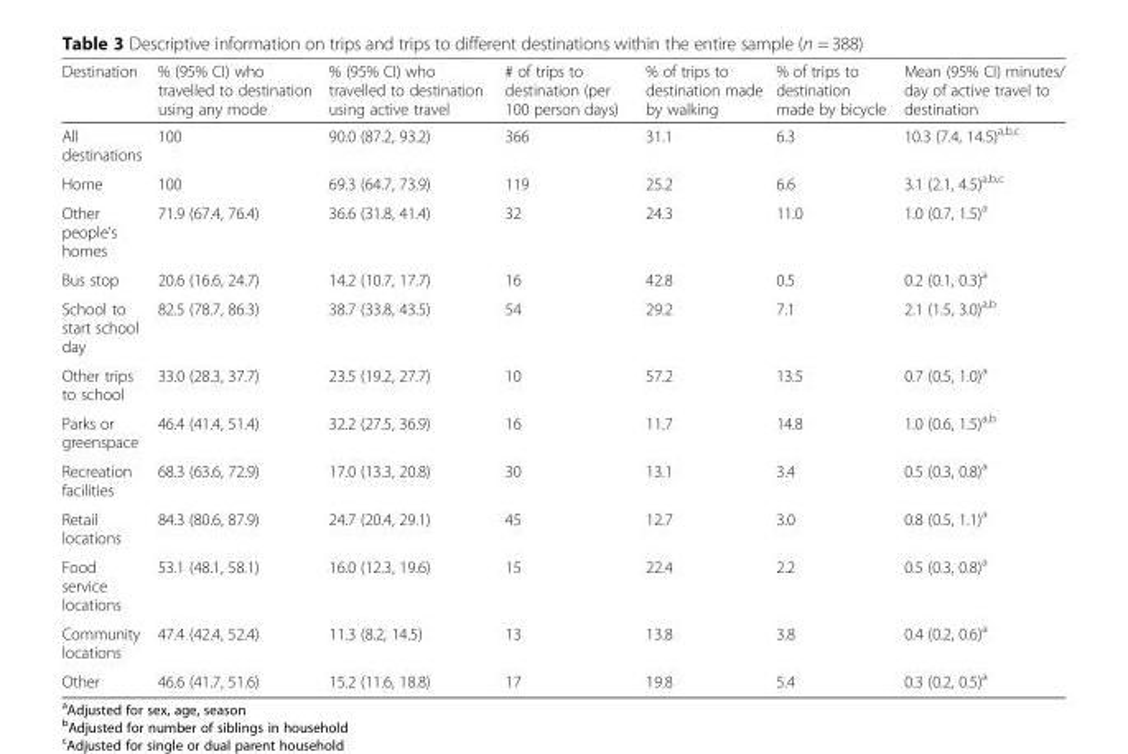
<table><thead><tr><td>Destination</td><td>% (95% CI) who travelled to destination using any mode</td><td>% (95% CI) who travelled to destination using active travel</td><td># of trips to destination (per 100 person days)</td><td>% of trips to destination made by walking</td><td>% of trips to destination made by bicycle</td><td>Mean (95% CI) minutes/ day of active travel to destination</td></tr></thead><tbody><tr><td>All destinations</td><td>100</td><td>90.0 (87.2, 93.2)</td><td>366</td><td>31.1</td><td>6.3</td><td>10.3 (7.4, 14.5)<sup>a,b,c</sup></td></tr><tr><td>Home</td><td>100</td><td>69.3 (64.7, 73.9)</td><td>119</td><td>25.2</td><td>6.6</td><td>3.1 (2.1, 4.5)<sup>a,b,c</sup></td></tr><tr><td>Other people’s homes</td><td>71.9 (67.4, 76.4)</td><td>36.6 (31.8, 41.4)</td><td>32</td><td>24.3</td><td>11.0</td><td>1.0 (0.7, 1.5)<sup>a</sup></td></tr><tr><td>Bus stop</td><td>20.6 (16.6, 24.7)</td><td>14.2 (10.7, 17.7)</td><td>16</td><td>42.8</td><td>0.5</td><td>0.2 (0.1, 0.3)<sup>a</sup></td></tr><tr><td>School to start school day</td><td>82.5 (78.7, 86.3)</td><td>38.7 (33.8, 43.5)</td><td>54</td><td>29.2</td><td>7.1</td><td>2.1 (1.5, 3.0)<sup>a,b</sup></td></tr><tr><td>Other trips to school</td><td>33.0 (28.3, 37.7)</td><td>23.5 (19.2, 27.7)</td><td>10</td><td>57.2</td><td>13.5</td><td>0.7 (0.5, 1.0)<sup>a</sup></td></tr><tr><td>Parks or greenspace</td><td>46.4 (41.4, 51.4)</td><td>32.2 (27.5, 36.9)</td><td>16</td><td>11.7</td><td>14.8</td><td>1.0 (0.6, 1.5)<sup>a,b</sup></td></tr><tr><td>Recreation facilities</td><td>68.3 (63.6, 72.9)</td><td>17.0 (13.3, 20.8)</td><td>30</td><td>13.1</td><td>3.4</td><td>0.5 (0.3, 0.8)<sup>a</sup></td></tr><tr><td>Retail locations</td><td>84.3 (80.6, 87.9)</td><td>24.7 (20.4, 29.1)</td><td>45</td><td>12.7</td><td>3.0</td><td>0.8 (0.5, 1.1)<sup>a</sup></td></tr><tr><td>Food service locations</td><td>53.1 (48.1, 58.1)</td><td>16.0 (12.3, 19.6)</td><td>15</td><td>22.4</td><td>2.2</td><td>0.5 (0.3, 0.8)<sup>a</sup></td></tr><tr><td>Community locations</td><td>47.4 (42.4, 52.4)</td><td>11.3 (8.2, 14.5)</td><td>13</td><td>13.8</td><td>3.8</td><td>0.4 (0.2, 0.6)<sup>a</sup></td></tr><tr><td>Other</td><td>46.6 (41.7, 51.6)</td><td>15.2 (11.6, 18.8)</td><td>17</td><td>19.8</td><td>5.4</td><td>0.3 (0.2, 0.5)<sup>a</sup></td></tr></tbody></table>